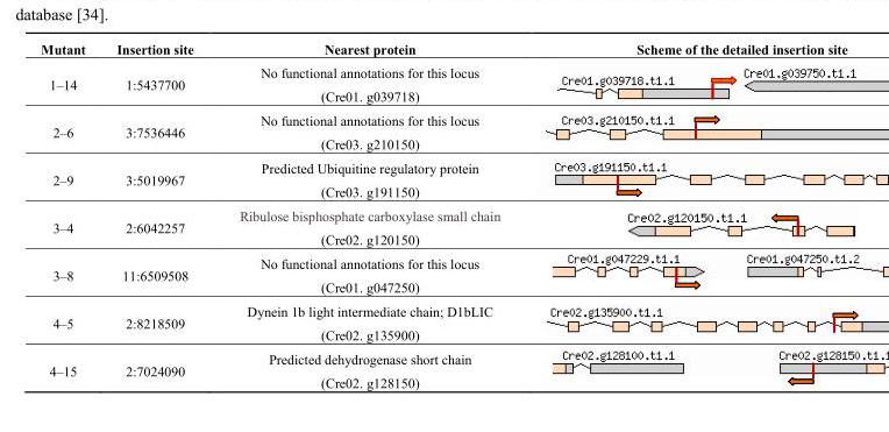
<table><thead><tr><td>Mutant</td><td>Insertion site</td><td>Nearest protein</td><td>Scheme of the detailed insertion site</td></tr></thead><tbody><tr><td rowspan="2">1–14</td><td rowspan="2">1:5437700</td><td>No functional annotations for this locus</td><td rowspan="2"></td></tr><tr><td>(Cre01. g039718)</td></tr><tr><td rowspan="2">2–6</td><td rowspan="2">3:7536446</td><td>No functional annotations for this locus</td><td rowspan="2"></td></tr><tr><td>(Cre03. g210150)</td></tr><tr><td rowspan="2">2–9</td><td rowspan="2">3:5019967</td><td>Predicted Ubiquitine regulatory protein</td><td rowspan="2"></td></tr><tr><td>(Cre03. g191150)</td></tr><tr><td rowspan="2">3–4</td><td rowspan="2">2:6042257</td><td>Ribulose bisphosphate carboxylase small chain</td><td rowspan="2"></td></tr><tr><td>(Cre02. g120150)</td></tr><tr><td rowspan="2">3–8</td><td rowspan="2">11:6509508</td><td>No functional annotations for this locus</td><td rowspan="2"></td></tr><tr><td>(Cre01. g047250)</td></tr><tr><td rowspan="2">4–5</td><td rowspan="2">2:8218509</td><td>Dynein 1b light intermediate chain; D1bLIC</td><td rowspan="2"></td></tr><tr><td>(Cre02. g135900)</td></tr><tr><td rowspan="2">4–15</td><td rowspan="2">2:7024090</td><td>Predicted dehydrogenase short chain</td><td rowspan="2"></td></tr><tr><td>(Cre02. g128150)</td></tr></tbody></table>